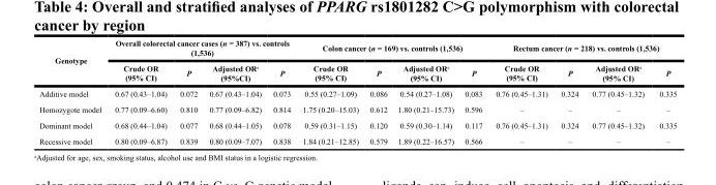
<table><thead><tr><td rowspan="2">Genotype</td><td colspan="4">Overall colorectal cancer cases (n = 387) vs. controls (1,536)</td><td colspan="4">Colon cancer (n = 169) vs. controls (1,536)</td><td colspan="4">Rectum cancer (n = 218) vs. controls (1,536)</td></tr><tr><td>Crude OR (95% CI)</td><td>P</td><td>Adjusted OR<sup>a</sup> (95%CI)</td><td>P</td><td>Crude OR (95% CI)</td><td>P</td><td>Adjusted OR<sup>a</sup> (95% CI)</td><td>P</td><td>Crude OR (95% CI)</td><td>P</td><td>Adjusted OR<sup>a</sup> (95% CI)</td><td>P</td></tr></thead><tbody><tr><td>Additive model</td><td>0.67 (0.43–1.04)</td><td>0.072</td><td>0.67 (0.43–1.04)</td><td>0.073</td><td>0.55 (0.27–1.09)</td><td>0.086</td><td>0.54 (0.27–1.08)</td><td>0.083</td><td>0.76 (0.45–1.31)</td><td>0.324</td><td>0.77 (0.45–1.32)</td><td>0.335</td></tr><tr><td>Homozygote model</td><td>0.77 (0.09–6.60)</td><td>0.810</td><td>0.77 (0.09–6.82)</td><td>0.814</td><td>1.75 (0.20–15.03)</td><td>0.612</td><td>1.80 (0.21–15.73)</td><td>0.596</td><td>–</td><td>–</td><td>–</td><td>–</td></tr><tr><td>Dominant model</td><td>0.68 (0.44–1.04)</td><td>0.077</td><td>0.68 (0.44–1.05)</td><td>0.078</td><td>0.59 (0.31–1.15)</td><td>0.120</td><td>0.59 (0.30–1.14)</td><td>0.117</td><td>0.76 (0.45–1.31)</td><td>0.324</td><td>0.77 (0.45–1.32)</td><td>0.335</td></tr><tr><td>Recessive model</td><td>0.80 (0.09–6.87)</td><td>0.839</td><td>0.80 (0.09–7.07)</td><td>0.838</td><td>1.84 (0.21–12.85)</td><td>0.579</td><td>1.89 (0.22–16.57)</td><td>0.566</td><td>–</td><td>–</td><td>–</td><td>–</td></tr></tbody></table>